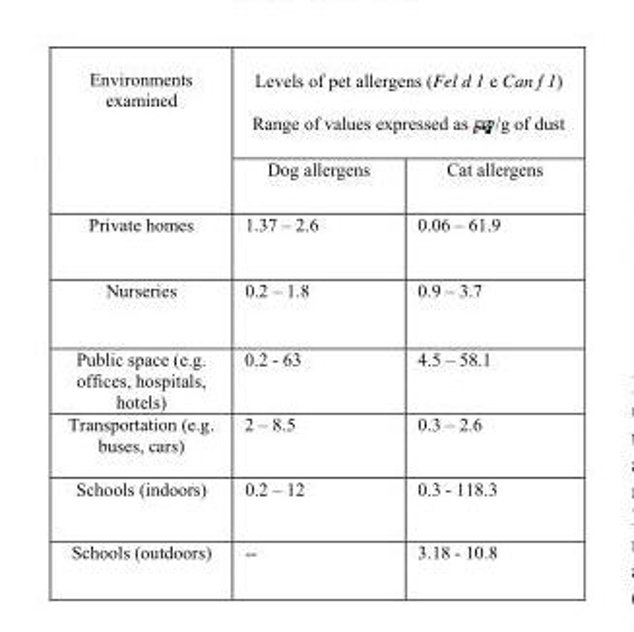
<table><thead><tr><td rowspan="2">Environments examined</td><td colspan="2">Levels of pet allergens (Fel d 1 e Can f 1) Range of values expressed as /g of dust</td></tr><tr><td>Dog allergens</td><td>Cat allergens</td></tr></thead><tbody><tr><td>Private homes</td><td>1.37 – 2.6</td><td>0.06 – 61.9</td></tr><tr><td>Nurseries</td><td>0.2 – 1.8</td><td>0.9 – 3.7</td></tr><tr><td>Public space (e.g. offices, hospitals, hotels)</td><td>0.2 - 63</td><td>4.5 – 58.1</td></tr><tr><td>Transportation (e.g. buses, cars)</td><td>2 – 8.5</td><td>0.3 – 2.6</td></tr><tr><td>Schools (indoors)</td><td>0.2 – 12</td><td>0.3 - 118.3</td></tr><tr><td>Schools (outdoors)</td><td>--</td><td>3.18 - 10.8</td></tr></tbody></table>